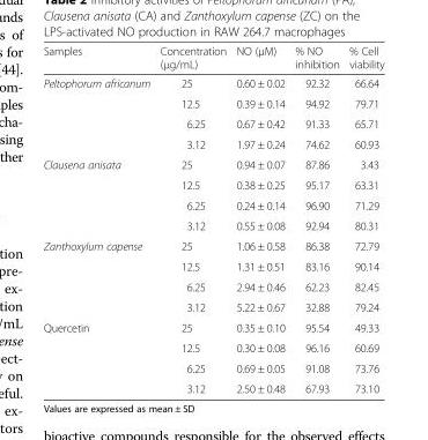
<table><thead><tr><td>Samples</td><td>Concentration (μg/mL)</td><td>NO (μM)</td><td>% NO inhibition</td><td>% Cell viability</td></tr></thead><tbody><tr><td rowspan="4">Peltophorum africanum</td><td>25</td><td>0.60 ± 0.02</td><td>92.32</td><td>66.64</td></tr><tr><td>12.5</td><td>0.39 ± 0.14</td><td>94.92</td><td>79.71</td></tr><tr><td>6.25</td><td>0.67 ± 0.42</td><td>91.33</td><td>65.71</td></tr><tr><td>3.12</td><td>1.97 ± 0.24</td><td>74.62</td><td>60.93</td></tr><tr><td rowspan="4">Clausena anisata</td><td>25</td><td>0.94 ± 0.07</td><td>87.86</td><td>3.43</td></tr><tr><td>12.5</td><td>0.38 ± 0.25</td><td>95.17</td><td>63.31</td></tr><tr><td>6.25</td><td>0.24 ± 0.14</td><td>96.90</td><td>71.29</td></tr><tr><td>3.12</td><td>0.55 ± 0.08</td><td>92.94</td><td>80.31</td></tr><tr><td rowspan="4">Zanthoxylum capense</td><td>25</td><td>1.06 ± 0.58</td><td>86.38</td><td>72.79</td></tr><tr><td>12.5</td><td>1.31 ± 0.51</td><td>83.16</td><td>90.14</td></tr><tr><td>6.25</td><td>2.94 ± 0.46</td><td>62.23</td><td>82.45</td></tr><tr><td>3.12</td><td>5.22 ± 0.67</td><td>32.88</td><td>79.24</td></tr><tr><td rowspan="4">Quercetin</td><td>25</td><td>0.35 ± 0.10</td><td>95.54</td><td>49.33</td></tr><tr><td>12.5</td><td>0.30 ± 0.08</td><td>96.16</td><td>60.69</td></tr><tr><td>6.25</td><td>0.69 ± 0.05</td><td>91.08</td><td>73.76</td></tr><tr><td>3.12</td><td>2.50 ± 0.48</td><td>67.93</td><td>73.10</td></tr></tbody></table>